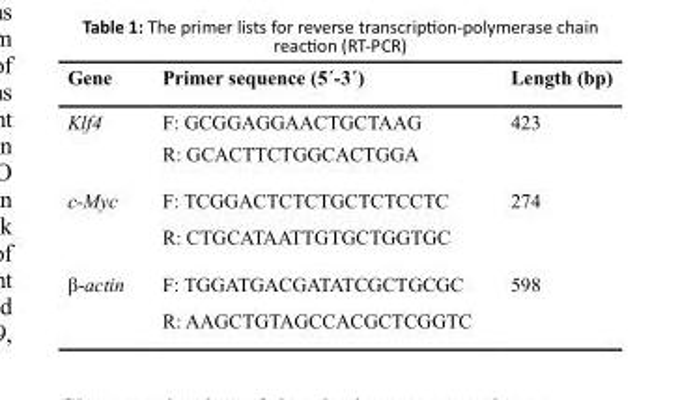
<table><thead><tr><td>Gene</td><td>Primer sequence (5ˊ-3ˊ)</td><td>Length (bp)</td></tr></thead><tbody><tr><td rowspan="2">Klf4</td><td>F: GCGGAGGAACTGCTAAG</td><td rowspan="2">423</td></tr><tr><td>R: GCACTTCTGGCACTGGA</td></tr><tr><td rowspan="2">c-Myc</td><td>F: TCGGACTCTCTGCTCTCCTC</td><td rowspan="2">274</td></tr><tr><td>R: CTGCATAATTGTGCTGGTGC</td></tr><tr><td rowspan="2">β-actin</td><td>F: TGGATGACGATATCGCTGCGC</td><td rowspan="2">598</td></tr><tr><td>R: AAGCTGTAGCCACGCTCGGTC</td></tr></tbody></table>